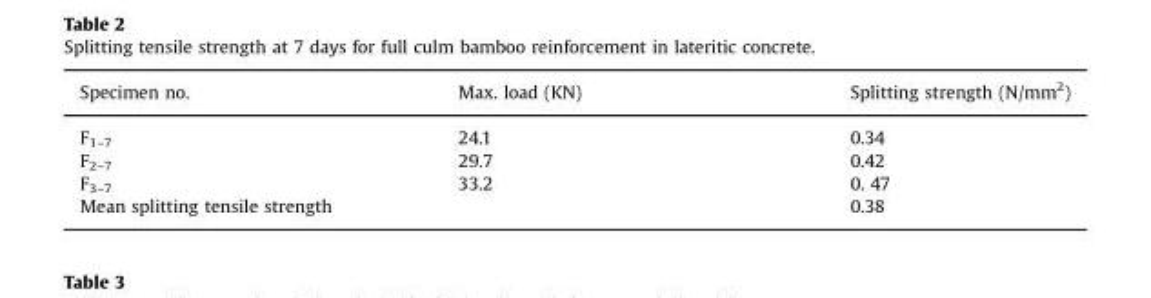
<table><thead><tr><td>Specimen no.</td><td>Max. load (KN)</td><td>Splitting strength (N/mm<sup>2</sup>)</td></tr></thead><tbody><tr><td>F<sub>1–7</sub></td><td>24.1</td><td>0.34</td></tr><tr><td>F<sub>2–7</sub></td><td>29.7</td><td>0.42</td></tr><tr><td>F<sub>3–7</sub></td><td>33.2</td><td>0. 47</td></tr><tr><td colspan="2">Mean splitting tensile strength</td><td>0.38</td></tr></tbody></table>